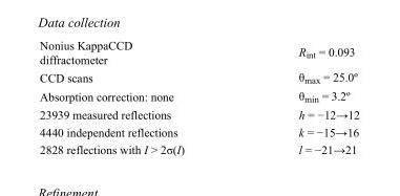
<table><tbody><tr><td>Nonius KappaCCD diffractometer</td><td>R<sub>int</sub> = 0.093</td></tr><tr><td>CCD scans</td><td>θ<sub>max</sub> = 25.0º</td></tr><tr><td>Absorption correction: none</td><td>θ<sub>min</sub> = 3.2º</td></tr><tr><td>23939 measured reflections</td><td>h = −12→12</td></tr><tr><td>4440 independent reflections</td><td>k = −15→16</td></tr><tr><td>2828 reflections with I &gt; 2σ(I)</td><td>l = −21→21</td></tr></tbody></table>